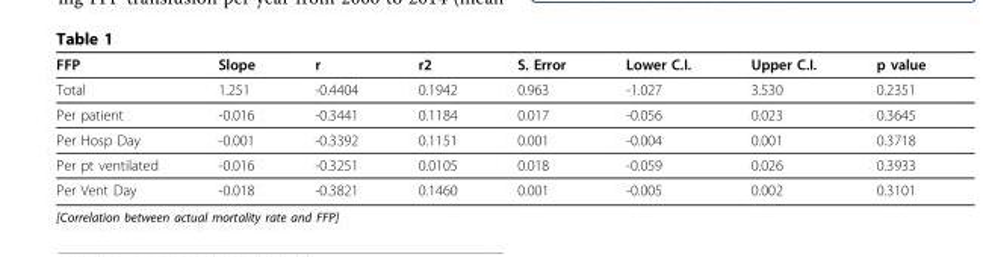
<table><thead><tr><td>FFP</td><td>Slope</td><td>r</td><td>r2</td><td>S. Error</td><td>Lower C.I.</td><td>Upper C.I.</td><td>p value</td></tr></thead><tbody><tr><td>Total</td><td>1.251</td><td>-0.4404</td><td>0.1942</td><td>0.963</td><td>-1.027</td><td>3.530</td><td>0.2351</td></tr><tr><td>Per patient</td><td>-0.016</td><td>-0.3441</td><td>0.1184</td><td>0.017</td><td>-0.056</td><td>0.023</td><td>0.3645</td></tr><tr><td>Per Hosp Day</td><td>-0.001</td><td>-0.3392</td><td>0.1151</td><td>0.001</td><td>-0.004</td><td>0.001</td><td>0.3718</td></tr><tr><td>Per pt ventilated</td><td>-0.016</td><td>-0.3251</td><td>0.0105</td><td>0.018</td><td>-0.059</td><td>0.026</td><td>0.3933</td></tr><tr><td>Per Vent Day</td><td>-0.018</td><td>-0.3821</td><td>0.1460</td><td>0.001</td><td>-0.005</td><td>0.002</td><td>0.3101</td></tr></tbody></table>